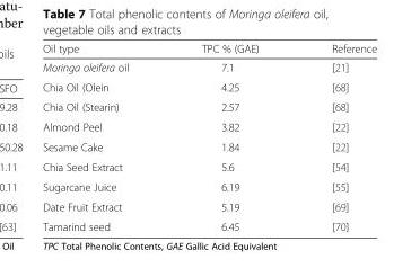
<table><thead><tr><td>Oil type</td><td>TPC % (GAE)</td><td>Reference</td></tr></thead><tbody><tr><td>Moringa oleifera oil</td><td>7.1</td><td>[21]</td></tr><tr><td>Chia Oil (Olein</td><td>4.25</td><td>[68]</td></tr><tr><td>Chia Oil (Stearin)</td><td>2.57</td><td>[68]</td></tr><tr><td>Almond Peel</td><td>3.82</td><td>[22]</td></tr><tr><td>Sesame Cake</td><td>1.84</td><td>[22]</td></tr><tr><td>Chia Seed Extract</td><td>5.6</td><td>[54]</td></tr><tr><td>Sugarcane Juice</td><td>6.19</td><td>[55]</td></tr><tr><td>Date Fruit Extract</td><td>5.19</td><td>[69]</td></tr><tr><td>Tamarind seed</td><td>6.45</td><td>[70]</td></tr></tbody></table>